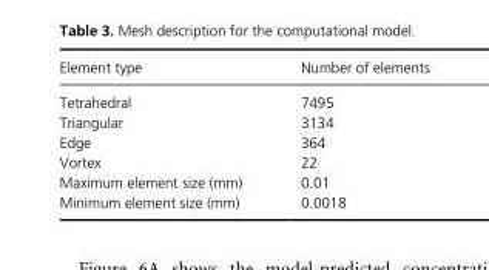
<table><thead><tr><td>Element type</td><td>Number of elements</td></tr></thead><tbody><tr><td>Tetrahedral</td><td>7495</td></tr><tr><td>Triangular</td><td>3134</td></tr><tr><td>Edge</td><td>364</td></tr><tr><td>Vortex</td><td>22</td></tr><tr><td>Maximum element size (mm)</td><td>0.01</td></tr><tr><td>Minimum element size (mm)</td><td>0.0018</td></tr></tbody></table>